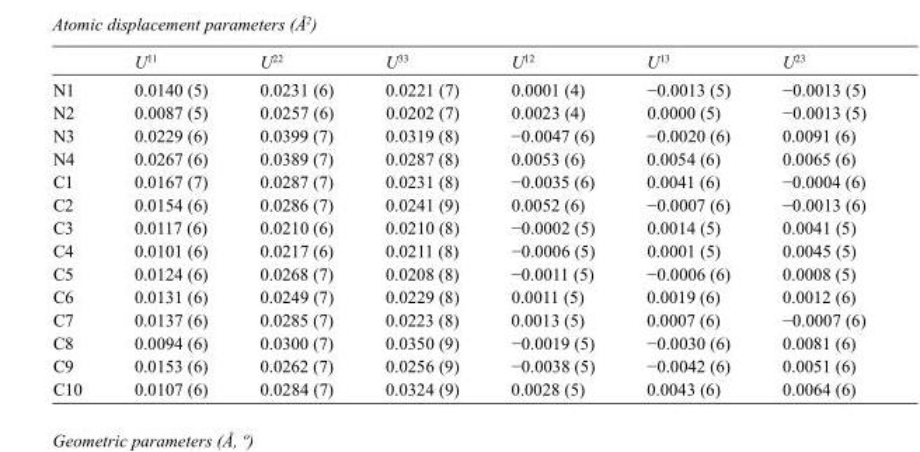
<table><thead><tr><td></td><td>U<sup>11</sup></td><td>U<sup>22</sup></td><td>U<sup>33</sup></td><td>U<sup>12</sup></td><td>U<sup>13</sup></td><td>U<sup>23</sup></td></tr></thead><tbody><tr><td>N1</td><td>0.0140 (5)</td><td>0.0231 (6)</td><td>0.0221 (7)</td><td>0.0001 (4)</td><td>−0.0013 (5)</td><td>−0.0013 (5)</td></tr><tr><td>N2</td><td>0.0087 (5)</td><td>0.0257 (6)</td><td>0.0202 (7)</td><td>0.0023 (4)</td><td>0.0000 (5)</td><td>−0.0013 (5)</td></tr><tr><td>N3</td><td>0.0229 (6)</td><td>0.0399 (7)</td><td>0.0319 (8)</td><td>−0.0047 (6)</td><td>−0.0020 (6)</td><td>0.0091 (6)</td></tr><tr><td>N4</td><td>0.0267 (6)</td><td>0.0389 (7)</td><td>0.0287 (8)</td><td>0.0053 (6)</td><td>0.0054 (6)</td><td>0.0065 (6)</td></tr><tr><td>C1</td><td>0.0167 (7)</td><td>0.0287 (7)</td><td>0.0231 (8)</td><td>−0.0035 (6)</td><td>0.0041 (6)</td><td>−0.0004 (6)</td></tr><tr><td>C2</td><td>0.0154 (6)</td><td>0.0286 (7)</td><td>0.0241 (9)</td><td>0.0052 (6)</td><td>−0.0007 (6)</td><td>−0.0013 (6)</td></tr><tr><td>C3</td><td>0.0117 (6)</td><td>0.0210 (6)</td><td>0.0210 (8)</td><td>−0.0002 (5)</td><td>0.0014 (5)</td><td>0.0041 (5)</td></tr><tr><td>C4</td><td>0.0101 (6)</td><td>0.0217 (6)</td><td>0.0211 (8)</td><td>−0.0006 (5)</td><td>0.0001 (5)</td><td>0.0045 (5)</td></tr><tr><td>C5</td><td>0.0124 (6)</td><td>0.0268 (7)</td><td>0.0208 (8)</td><td>−0.0011 (5)</td><td>−0.0006 (6)</td><td>0.0008 (5)</td></tr><tr><td>C6</td><td>0.0131 (6)</td><td>0.0249 (7)</td><td>0.0229 (8)</td><td>0.0011 (5)</td><td>0.0019 (6)</td><td>0.0012 (6)</td></tr><tr><td>C7</td><td>0.0137 (6)</td><td>0.0285 (7)</td><td>0.0223 (8)</td><td>0.0013 (5)</td><td>0.0007 (6)</td><td>−0.0007 (6)</td></tr><tr><td>C8</td><td>0.0094 (6)</td><td>0.0300 (7)</td><td>0.0350 (9)</td><td>−0.0019 (5)</td><td>−0.0030 (6)</td><td>0.0081 (6)</td></tr><tr><td>C9</td><td>0.0153 (6)</td><td>0.0262 (7)</td><td>0.0256 (9)</td><td>−0.0038 (5)</td><td>−0.0042 (6)</td><td>0.0051 (6)</td></tr><tr><td>C10</td><td>0.0107 (6)</td><td>0.0284 (7)</td><td>0.0324 (9)</td><td>0.0028 (5)</td><td>0.0043 (6)</td><td>0.0064 (6)</td></tr></tbody></table>